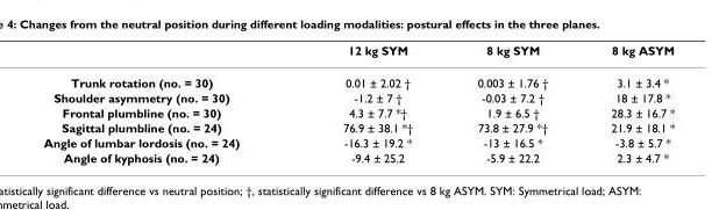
<table><thead><tr><td></td><td>12 kg SYM</td><td>8 kg SYM</td><td>8 kg ASYM</td></tr></thead><tbody><tr><td>Trunk rotation (no. = 30)</td><td>0.01 ± 2.02 †</td><td>0.003 ± 1.76 †</td><td>3.1 ± 3.4 *</td></tr><tr><td>Shoulder asymmetry (no. = 30)</td><td>-1.2 ± 7 †</td><td>-0.03 ± 7.2 †</td><td>18 ± 17.8 *</td></tr><tr><td>Frontal plumbline (no. = 30)</td><td>4.3 ± 7.7 *†</td><td>1.9 ± 6.5 †</td><td>28.3 ± 16.7 *</td></tr><tr><td>Sagittal plumbline (no. = 24)</td><td>76.9 ± 38.1 *†</td><td>73.8 ± 27.9 *†</td><td>21.9 ± 18.1 *</td></tr><tr><td>Angle of lumbar lordosis (no. = 24)</td><td>-16.3 ± 19.2 *</td><td>-13 ± 16.5 *</td><td>-3.8 ± 5.7 *</td></tr><tr><td>Angle of kyphosis (no. = 24)</td><td>-9.4 ± 25.2</td><td>-5.9 ± 22.2</td><td>2.3 ± 4.7 *</td></tr></tbody></table>